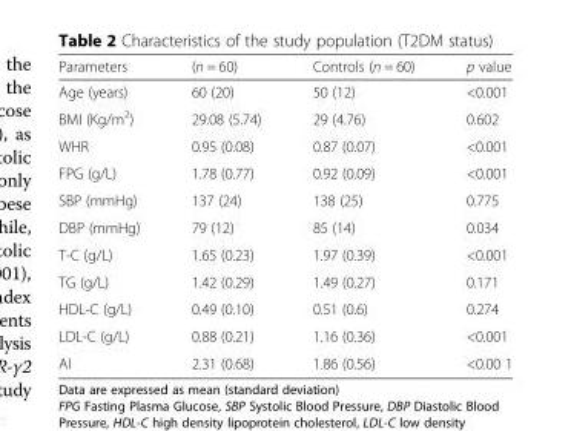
<table><thead><tr><td>Parameters</td><td>(n = 60)</td><td>Controls (n = 60)</td><td>p value</td></tr></thead><tbody><tr><td>Age (years)</td><td>60 (20)</td><td>50 (12)</td><td>&lt;0.001</td></tr><tr><td>BMI (Kg/m<sup>2</sup>)</td><td>29.08 (5.74)</td><td>29 (4.76)</td><td>0.602</td></tr><tr><td>WHR</td><td>0.95 (0.08)</td><td>0.87 (0.07)</td><td>&lt;0.001</td></tr><tr><td>FPG (g/L)</td><td>1.78 (0.77)</td><td>0.92 (0.09)</td><td>&lt;0.001</td></tr><tr><td>SBP (mmHg)</td><td>137 (24)</td><td>138 (25)</td><td>0.775</td></tr><tr><td>DBP (mmHg)</td><td>79 (12)</td><td>85 (14)</td><td>0.034</td></tr><tr><td>T-C (g/L)</td><td>1.65 (0.23)</td><td>1.97 (0.39)</td><td>&lt;0.001</td></tr><tr><td>TG (g/L)</td><td>1.42 (0.29)</td><td>1.49 (0.27)</td><td>0.171</td></tr><tr><td>HDL-C (g/L)</td><td>0.49 (0.10)</td><td>0.51 (0.6)</td><td>0.274</td></tr><tr><td>LDL-C (g/L)</td><td>0.88 (0.21)</td><td>1.16 (0.36)</td><td>&lt;0.001</td></tr><tr><td>AI</td><td>2.31 (0.68)</td><td>1.86 (0.56)</td><td>&lt;0.00 1</td></tr></tbody></table>